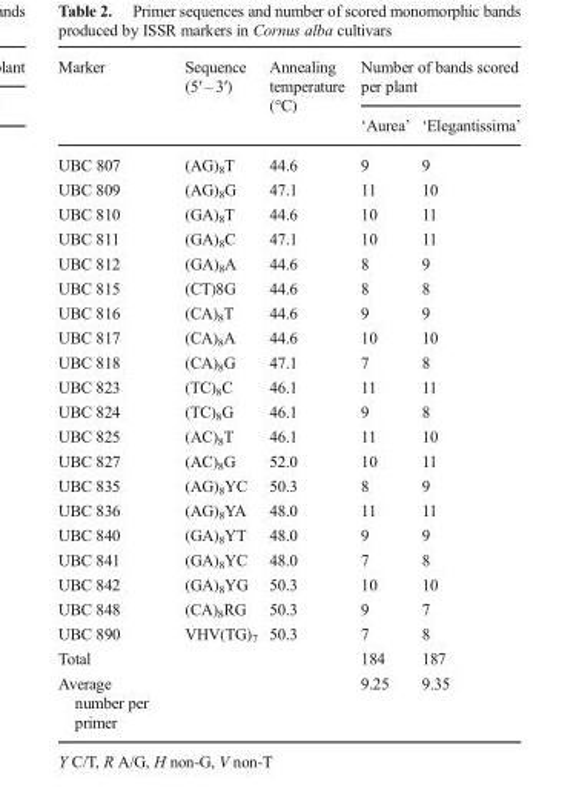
<table><thead><tr><td rowspan="2">Marker</td><td rowspan="2">Sequence (5′ – 3′)</td><td rowspan="2">Annealing temperature (°C)</td><td colspan="2">Number of bands scored per plant</td></tr><tr><td>‘Aurea’</td><td>‘Elegantissima’</td></tr></thead><tbody><tr><td>UBC 807</td><td>(AG)<sub>8</sub>T</td><td>44.6</td><td>9</td><td>9</td></tr><tr><td>UBC 809</td><td>(AG)<sub>8</sub>G</td><td>47.1</td><td>11</td><td>10</td></tr><tr><td>UBC 810</td><td>(GA)<sub>8</sub>T</td><td>44.6</td><td>10</td><td>11</td></tr><tr><td>UBC 811</td><td>(GA)<sub>8</sub>C</td><td>47.1</td><td>10</td><td>11</td></tr><tr><td>UBC 812</td><td>(GA)<sub>8</sub>A</td><td>44.6</td><td>8</td><td>9</td></tr><tr><td>UBC 815</td><td>(CT)8G</td><td>44.6</td><td>8</td><td>8</td></tr><tr><td>UBC 816</td><td>(CA)<sub>8</sub>T</td><td>44.6</td><td>9</td><td>9</td></tr><tr><td>UBC 817</td><td>(CA)<sub>8</sub>A</td><td>44.6</td><td>10</td><td>10</td></tr><tr><td>UBC 818</td><td>(CA)<sub>8</sub>G</td><td>47.1</td><td>7</td><td>8</td></tr><tr><td>UBC 823</td><td>(TC)<sub>8</sub>C</td><td>46.1</td><td>11</td><td>11</td></tr><tr><td>UBC 824</td><td>(TC)<sub>8</sub>G</td><td>46.1</td><td>9</td><td>8</td></tr><tr><td>UBC 825</td><td>(AC)<sub>8</sub>T</td><td>46.1</td><td>11</td><td>10</td></tr><tr><td>UBC 827</td><td>(AC)<sub>8</sub>G</td><td>52.0</td><td>10</td><td>11</td></tr><tr><td>UBC 835</td><td>(AG)<sub>8</sub>YC</td><td>50.3</td><td>8</td><td>9</td></tr><tr><td>UBC 836</td><td>(AG)<sub>8</sub>YA</td><td>48.0</td><td>11</td><td>11</td></tr><tr><td>UBC 840</td><td>(GA)<sub>8</sub>YT</td><td>48.0</td><td>9</td><td>9</td></tr><tr><td>UBC 841</td><td>(GA)<sub>8</sub>YC</td><td>48.0</td><td>7</td><td>8</td></tr><tr><td>UBC 842</td><td>(GA)<sub>8</sub>YG</td><td>50.3</td><td>10</td><td>10</td></tr><tr><td>UBC 848</td><td>(CA)<sub>8</sub>RG</td><td>50.3</td><td>9</td><td>7</td></tr><tr><td>UBC 890</td><td>VHV(TG)<sub>7</sub></td><td>50.3</td><td>7</td><td>8</td></tr><tr><td>Total</td><td></td><td></td><td>184</td><td>187</td></tr><tr><td>Average number per primer</td><td></td><td></td><td>9.25</td><td>9.35</td></tr></tbody></table>